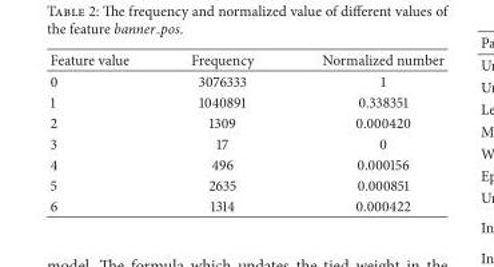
<table><thead><tr><td>Feature value</td><td>Frequency</td><td>Normalized number</td></tr></thead><tbody><tr><td>0</td><td>3076333</td><td>1</td></tr><tr><td>1</td><td>1040891</td><td>0.338351</td></tr><tr><td>2</td><td>1309</td><td>0.000420</td></tr><tr><td>3</td><td>17</td><td>0</td></tr><tr><td>4</td><td>496</td><td>0.000156</td></tr><tr><td>5</td><td>2635</td><td>0.000851</td></tr><tr><td>6</td><td>1314</td><td>0.000422</td></tr></tbody></table>